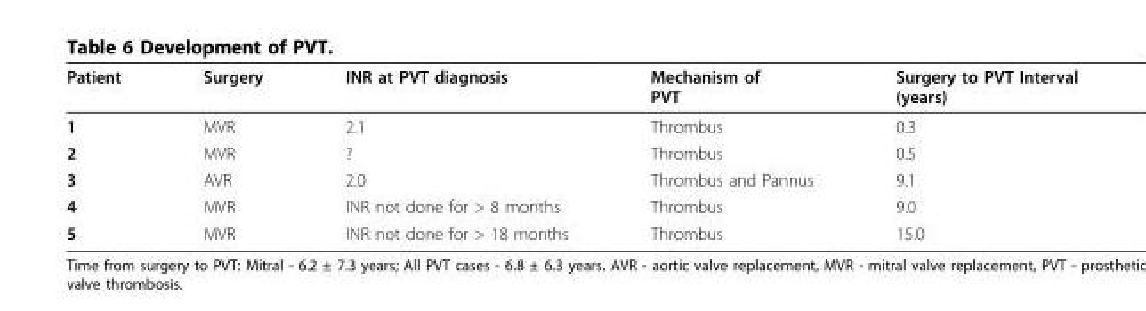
<table><thead><tr><td>Patient</td><td>Surgery</td><td>INR at PVT diagnosis</td><td>Mechanism of PVT</td><td>Surgery to PVT Interval (years)</td></tr></thead><tbody><tr><td>1</td><td>MVR</td><td>2.1</td><td>Thrombus</td><td>0.3</td></tr><tr><td>2</td><td>MVR</td><td>?</td><td>Thrombus</td><td>0.5</td></tr><tr><td>3</td><td>AVR</td><td>2.0</td><td>Thrombus and Pannus</td><td>9.1</td></tr><tr><td>4</td><td>MVR</td><td>INR not done for &gt; 8 months</td><td>Thrombus</td><td>9.0</td></tr><tr><td>5</td><td>MVR</td><td>INR not done for &gt; 18 months</td><td>Thrombus</td><td>15.0</td></tr></tbody></table>